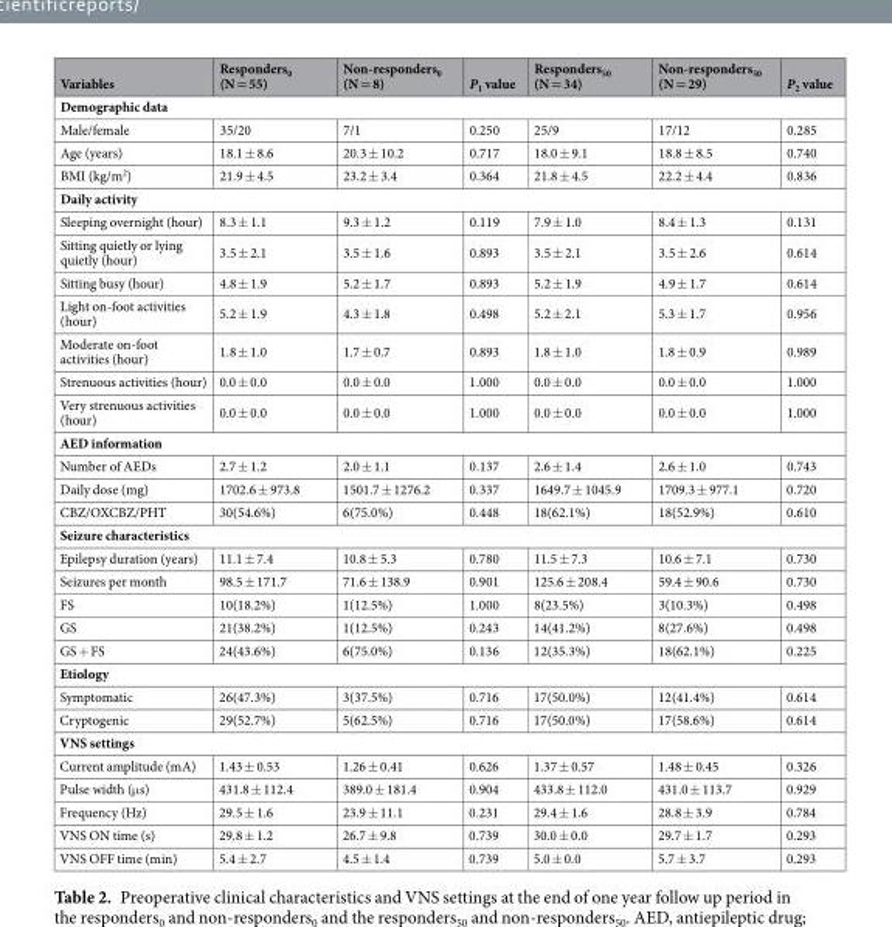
<table><thead><tr><td>Variables</td><td>Responders<sub>0</sub> (N = 55)</td><td>Non-responders<sub>0</sub> (N = 8)</td><td>P<sub>1</sub> value</td><td>Responders<sub>50</sub> (N = 34)</td><td>Non-responders<sub>50</sub> (N = 29)</td><td>P<sub>2</sub> value</td></tr></thead><tbody><tr><td colspan="7">Demographic data</td></tr><tr><td>Male/female</td><td>35/20</td><td>7/1</td><td>0.250</td><td>25/9</td><td>17/12</td><td>0.285</td></tr><tr><td>Age (years)</td><td>18.1 ± 8.6</td><td>20.3 ± 10.2</td><td>0.717</td><td>18.0 ± 9.1</td><td>18.8 ± 8.5</td><td>0.740</td></tr><tr><td>BMI (kg/m<sup>2</sup>)</td><td>21.9 ± 4.5</td><td>23.2 ± 3.4</td><td>0.364</td><td>21.8 ± 4.5</td><td>22.2 ± 4.4</td><td>0.836</td></tr><tr><td colspan="7">Daily activity</td></tr><tr><td>Sleeping overnight (hour)</td><td>8.3 ± 1.1</td><td>9.3 ± 1.2</td><td>0.119</td><td>7.9 ± 1.0</td><td>8.4 ± 1.3</td><td>0.131</td></tr><tr><td>Sitting quietly or lying quietly (hour)</td><td>3.5 ± 2.1</td><td>3.5 ± 1.6</td><td>0.893</td><td>3.5 ± 2.1</td><td>3.5 ± 2.6</td><td>0.614</td></tr><tr><td>Sitting busy (hour)</td><td>4.8 ± 1.9</td><td>5.2 ± 1.7</td><td>0.893</td><td>5.2 ± 1.9</td><td>4.9 ± 1.7</td><td>0.614</td></tr><tr><td>Light on-foot activities (hour)</td><td>5.2 ± 1.9</td><td>4.3 ± 1.8</td><td>0.498</td><td>5.2 ± 2.1</td><td>5.3 ± 1.7</td><td>0.956</td></tr><tr><td>Moderate on-foot activities (hour)</td><td>1.8 ± 1.0</td><td>1.7 ± 0.7</td><td>0.893</td><td>1.8 ± 1.0</td><td>1.8 ± 0.9</td><td>0.989</td></tr><tr><td>Strenuous activities (hour)</td><td>0.0 ± 0.0</td><td>0.0 ± 0.0</td><td>1.000</td><td>0.0 ± 0.0</td><td>0.0 ± 0.0</td><td>1.000</td></tr><tr><td>Very strenuous activities (hour)</td><td>0.0 ± 0.0</td><td>0.0 ± 0.0</td><td>1.000</td><td>0.0 ± 0.0</td><td>0.0 ± 0.0</td><td>1.000</td></tr><tr><td colspan="7">AED information</td></tr><tr><td>Number of AEDs</td><td>2.7 ± 1.2</td><td>2.0 ± 1.1</td><td>0.137</td><td>2.6 ± 1.4</td><td>2.6 ± 1.0</td><td>0.743</td></tr><tr><td>Daily dose (mg)</td><td>1702.6 ± 973.8</td><td>1501.7 ± 1276.2</td><td>0.337</td><td>1649.7 ± 1045.9</td><td>1709.3 ± 977.1</td><td>0.720</td></tr><tr><td>CBZ/OXCBZ/PHT</td><td>30(54.6%)</td><td>6(75.0%)</td><td>0.448</td><td>18(62.1%)</td><td>18(52.9%)</td><td>0.610</td></tr><tr><td colspan="7">Seizure characteristics</td></tr><tr><td>Epilepsy duration (years)</td><td>11.1 ± 7.4</td><td>10.8 ± 5.3</td><td>0.780</td><td>11.5 ± 7.3</td><td>10.6 ± 7.1</td><td>0.730</td></tr><tr><td>Seizures per month</td><td>98.5 ± 171.7</td><td>71.6 ± 138.9</td><td>0.901</td><td>125.6 ± 208.4</td><td>59.4 ± 90.6</td><td>0.730</td></tr><tr><td>FS</td><td>10(18.2%)</td><td>1(12.5%)</td><td>1.000</td><td>8(23.5%)</td><td>3(10.3%)</td><td>0.498</td></tr><tr><td>GS</td><td>21(38.2%)</td><td>1(12.5%)</td><td>0.243</td><td>14(41.2%)</td><td>8(27.6%)</td><td>0.498</td></tr><tr><td>GS + FS</td><td>24(43.6%)</td><td>6(75.0%)</td><td>0.136</td><td>12(35.3%)</td><td>18(62.1%)</td><td>0.225</td></tr><tr><td colspan="7">Etiology</td></tr><tr><td>Symptomatic</td><td>26(47.3%)</td><td>3(37.5%)</td><td>0.716</td><td>17(50.0%)</td><td>12(41.4%)</td><td>0.614</td></tr><tr><td>Cryptogenic</td><td>29(52.7%)</td><td>5(62.5%)</td><td>0.716</td><td>17(50.0%)</td><td>17(58.6%)</td><td>0.614</td></tr><tr><td colspan="7">VNS settings</td></tr><tr><td>Current amplitude (mA)</td><td>1.43 ± 0.53</td><td>1.26 ± 0.41</td><td>0.626</td><td>1.37 ± 0.57</td><td>1.48 ± 0.45</td><td>0.326</td></tr><tr><td>Pulse width (μs)</td><td>431.8 ± 112.4</td><td>389.0 ± 181.4</td><td>0.904</td><td>433.8 ± 112.0</td><td>431.0 ± 113.7</td><td>0.929</td></tr><tr><td>Frequency (Hz)</td><td>29.5 ± 1.6</td><td>23.9 ± 11.1</td><td>0.231</td><td>29.4 ± 1.6</td><td>28.8 ± 3.9</td><td>0.784</td></tr><tr><td>VNS ON time (s)</td><td>29.8 ± 1.2</td><td>26.7 ± 9.8</td><td>0.739</td><td>30.0 ± 0.0</td><td>29.7 ± 1.7</td><td>0.293</td></tr><tr><td>VNS OFF time (min)</td><td>5.4 ± 2.7</td><td>4.5 ± 1.4</td><td>0.739</td><td>5.0 ± 0.0</td><td>5.7 ± 3.7</td><td>0.293</td></tr></tbody></table>